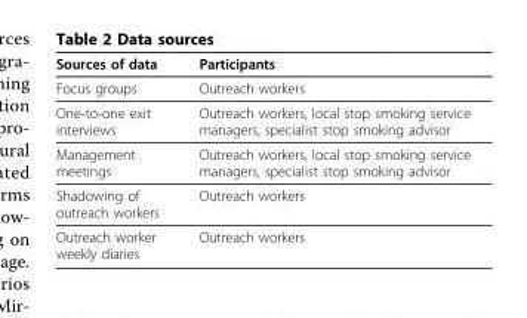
<table><thead><tr><td>Sources of data</td><td>Participants</td></tr></thead><tbody><tr><td>Focus groups</td><td>Outreach workers</td></tr><tr><td>One-to-one exit interviews</td><td>Outreach workers, local stop smoking service managers, specialist stop smoking advisor</td></tr><tr><td>Management meetings</td><td>Outreach workers, local stop smoking service managers, specialist stop smoking advisor</td></tr><tr><td>Shadowing of outreach workers</td><td>Outreach workers</td></tr><tr><td>Outreach worker weekly diaries</td><td>Outreach workers</td></tr></tbody></table>